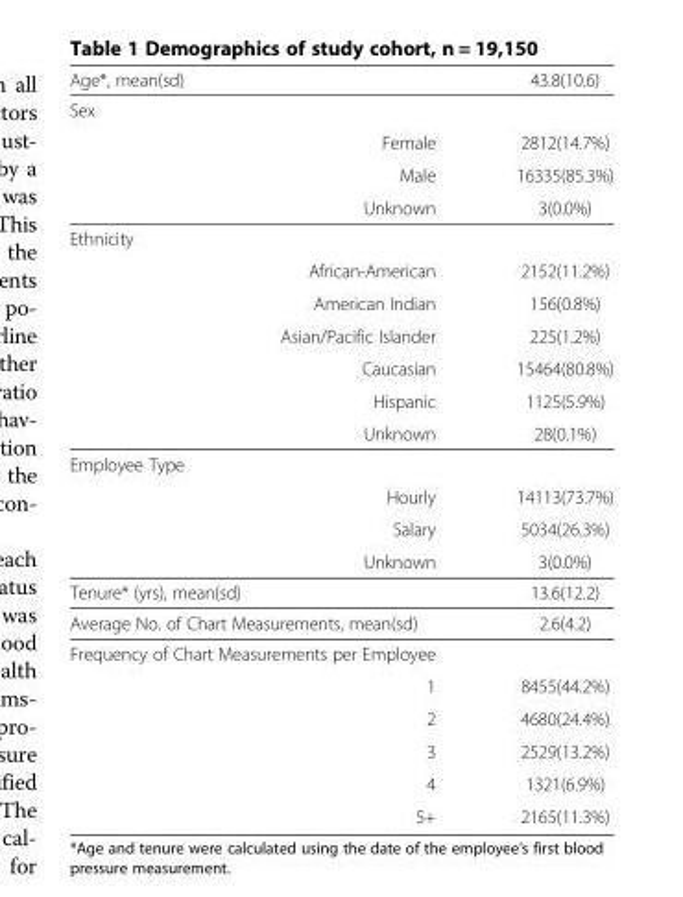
<table><tbody><tr><td>Age*, mean(sd)</td><td>43.8(10.6)</td></tr><tr><td colspan="2">Sex</td></tr><tr><td>Female</td><td>2812(14.7%)</td></tr><tr><td>Male</td><td>16335(85.3%)</td></tr><tr><td>Unknown</td><td>3(0.0%)</td></tr><tr><td colspan="2">Ethnicity</td></tr><tr><td>African-American</td><td>2152(11.2%)</td></tr><tr><td>American Indian</td><td>156(0.8%)</td></tr><tr><td>Asian/Pacific Islander</td><td>225(1.2%)</td></tr><tr><td>Caucasian</td><td>15464(80.8%)</td></tr><tr><td>Hispanic</td><td>1125(5.9%)</td></tr><tr><td>Unknown</td><td>28(0.1%)</td></tr><tr><td colspan="2">Employee Type</td></tr><tr><td>Hourly</td><td>14113(73.7%)</td></tr><tr><td>Salary</td><td>5034(26.3%)</td></tr><tr><td>Unknown</td><td>3(0.0%)</td></tr><tr><td>Tenure* (yrs), mean(sd)</td><td>13.6(12.2)</td></tr><tr><td>Average No. of Chart Measurements, mean(sd)</td><td>2.6(4.2)</td></tr><tr><td colspan="2">Frequency of Chart Measurements per Employee</td></tr><tr><td>1</td><td>8455(44.2%)</td></tr><tr><td>2</td><td>4680(24.4%)</td></tr><tr><td>3</td><td>2529(13.2%)</td></tr><tr><td>4</td><td>1321(6.9%)</td></tr><tr><td>5+</td><td>2165(11.3%)</td></tr></tbody></table>